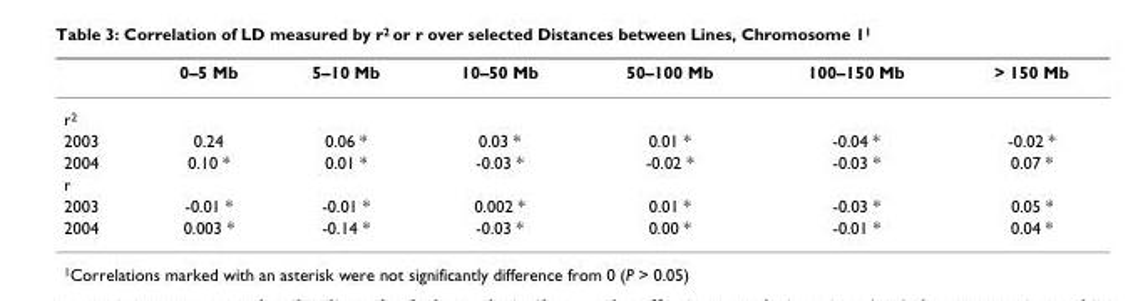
<table><thead><tr><td></td><td>0–5 Mb</td><td>5–10 Mb</td><td>10–50 Mb</td><td>50–100 Mb</td><td>100–150 Mb</td><td>&gt; 150 Mb</td></tr></thead><tbody><tr><td colspan="7">r<sup>2</sup></td></tr><tr><td>2003</td><td>0.24</td><td>0.06 *</td><td>0.03 *</td><td>0.01 *</td><td>-0.04 *</td><td>-0.02 *</td></tr><tr><td>2004</td><td>0.10 *</td><td>0.01 *</td><td>-0.03 *</td><td>-0.02 *</td><td>-0.03 *</td><td>0.07 *</td></tr><tr><td colspan="7">r</td></tr><tr><td>2003</td><td>-0.01 *</td><td>-0.01 *</td><td>0.002 *</td><td>0.01 *</td><td>-0.03 *</td><td>0.05 *</td></tr><tr><td>2004</td><td>0.003 *</td><td>-0.14 *</td><td>-0.03 *</td><td>0.00 *</td><td>-0.01 *</td><td>0.04 *</td></tr></tbody></table>